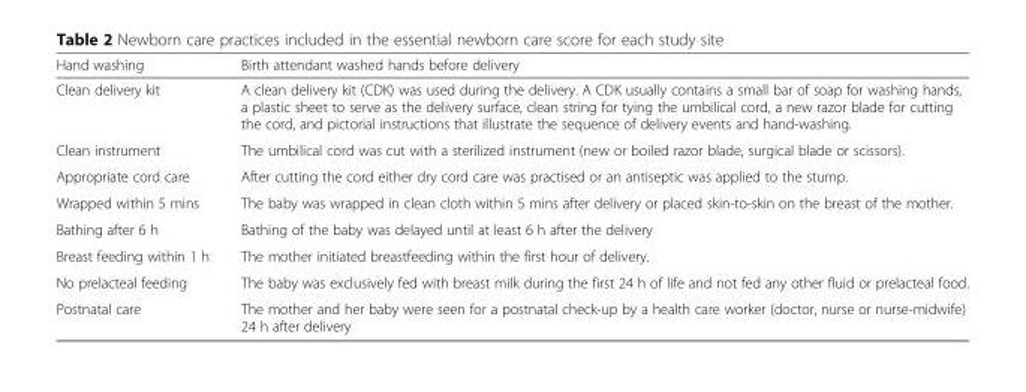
<table><thead><tr><td>Hand washing</td><td>Birth attendant washed hands before delivery</td></tr></thead><tbody><tr><td>Clean delivery kit</td><td>A clean delivery kit (CDK) was used during the delivery. A CDK usually contains a small bar of soap for washing hands, a plastic sheet to serve as the delivery surface, clean string for tying the umbilical cord, a new razor blade for cutting the cord, and pictorial instructions that illustrate the sequence of delivery events and hand-washing.</td></tr><tr><td>Clean instrument</td><td>The umbilical cord was cut with a sterilized instrument (new or boiled razor blade, surgical blade or scissors).</td></tr><tr><td>Appropriate cord care</td><td>After cutting the cord either dry cord care was practised or an antiseptic was applied to the stump.</td></tr><tr><td>Wrapped within 5 mins</td><td>The baby was wrapped in clean cloth within 5 mins after delivery or placed skin-to-skin on the breast of the mother.</td></tr><tr><td>Bathing after 6 h</td><td>Bathing of the baby was delayed until at least 6 h after the delivery</td></tr><tr><td>Breast feeding within 1 h</td><td>The mother initiated breastfeeding within the first hour of delivery.</td></tr><tr><td>No prelacteal feeding</td><td>The baby was exclusively fed with breast milk during the first 24 h of life and not fed any other fluid or prelacteal food.</td></tr><tr><td>Postnatal care</td><td>The mother and her baby were seen for a postnatal check-up by a health care worker (doctor, nurse or nurse-midwife) 24 h after delivery</td></tr></tbody></table>